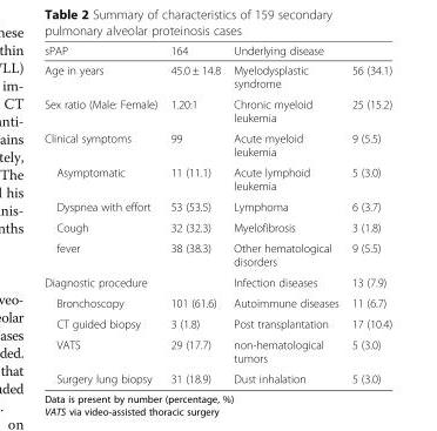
<table><thead><tr><td rowspan="2">sPAP Age in years</td><td rowspan="2">164 45.0 ± 14.8</td><td colspan="2">Underlying disease</td></tr><tr><td>Myelodysplastic syndrome</td><td>56 (34.1)</td></tr></thead><tbody><tr><td>Sex ratio (Male: Female)</td><td>1.20:1</td><td>Chronic myeloid leukemia</td><td>25 (15.2)</td></tr><tr><td>Clinical symptoms</td><td>99</td><td>Acute myeloid leukemia</td><td>9 (5.5)</td></tr><tr><td>Asymptomatic</td><td>11 (11.1)</td><td>Acute lymphoid leukemia</td><td>5 (3.0)</td></tr><tr><td>Dyspnea with effort</td><td>53 (53.5)</td><td>Lymphoma</td><td>6 (3.7)</td></tr><tr><td>Cough</td><td>32 (32.3)</td><td>Myelofibrosis</td><td>3 (1.8)</td></tr><tr><td>fever</td><td>38 (38.3)</td><td>Other hematological disorders</td><td>9 (5.5)</td></tr><tr><td colspan="2">Diagnostic procedure</td><td>Infection diseases</td><td>13 (7.9)</td></tr><tr><td>Bronchoscopy</td><td>101 (61.6)</td><td>Autoimmune diseases</td><td>11 (6.7)</td></tr><tr><td>CT guided biopsy</td><td>3 (1.8)</td><td>Post transplantation</td><td>17 (10.4)</td></tr><tr><td>VATS</td><td>29 (17.7)</td><td>non-hematological tumors</td><td>5 (3.0)</td></tr><tr><td>Surgery lung biopsy</td><td>31 (18.9)</td><td>Dust inhalation</td><td>5 (3.0)</td></tr></tbody></table>